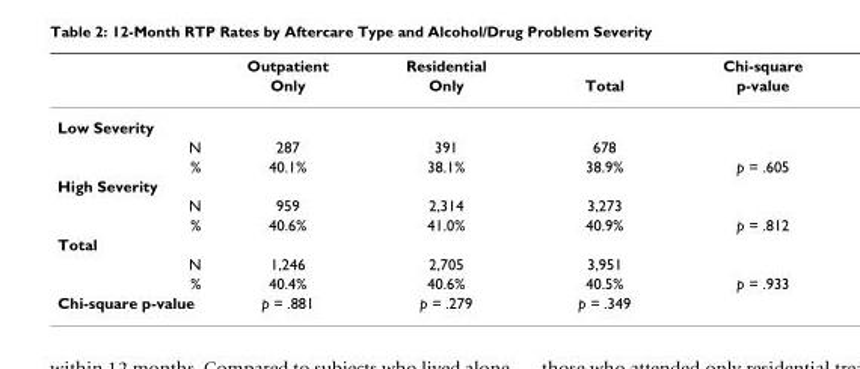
<table><thead><tr><td rowspan="2"></td><td rowspan="2">Outpatient Only</td><td rowspan="2">Residential Only</td><td rowspan="2">Total</td><td rowspan="2">Chi-square p-value</td></tr><tr></tr></thead><tbody><tr><td colspan="5">Low Severity</td></tr><tr><td>N</td><td>287</td><td>391</td><td>678</td><td></td></tr><tr><td>%</td><td>40.1%</td><td>38.1%</td><td>38.9%</td><td>p = .605</td></tr><tr><td colspan="5">High Severity</td></tr><tr><td>N</td><td>959</td><td>2,314</td><td>3,273</td><td></td></tr><tr><td>%</td><td>40.6%</td><td>41.0%</td><td>40.9%</td><td>p = .812</td></tr><tr><td colspan="5">Total</td></tr><tr><td>N</td><td>1,246</td><td>2,705</td><td>3,951</td><td></td></tr><tr><td>%</td><td>40.4%</td><td>40.6%</td><td>40.5%</td><td>p = .933</td></tr><tr><td>Chi-square p-value</td><td>p = .881</td><td>p = .279</td><td>p = .349</td><td></td></tr></tbody></table>